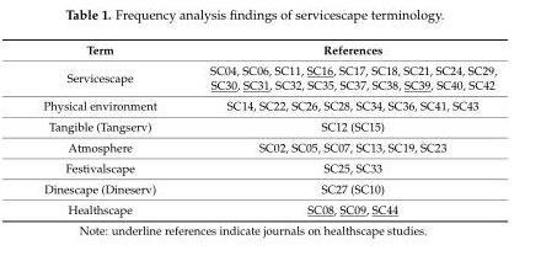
<table><thead><tr><td>Term</td><td>References</td></tr></thead><tbody><tr><td>Servicescape</td><td>SC04, SC06, SC11, SC16, SC17, SC18, SC21, SC24, SC29, SC30, SC31, SC32, SC35, SC37, SC38, SC39, SC40, SC42</td></tr><tr><td>Physical environment</td><td>SC14, SC22, SC26, SC28, SC34, SC36, SC41, SC43</td></tr><tr><td>Tangible (Tangserv)</td><td>SC12 (SC15)</td></tr><tr><td>Atmosphere</td><td>SC02, SC05, SC07, SC13, SC19, SC23</td></tr><tr><td>Festivalscape</td><td>SC25, SC33</td></tr><tr><td>Dinescape (Dineserv)</td><td>SC27 (SC10)</td></tr><tr><td>Healthscape</td><td>SC08, SC09, SC44</td></tr></tbody></table>